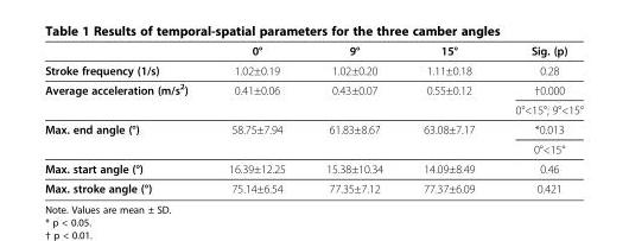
<table><thead><tr><td></td><td>0°</td><td>9°</td><td>15°</td><td>Sig. (p)</td></tr></thead><tbody><tr><td>Stroke frequency (1/s)</td><td>1.02±0.19</td><td>1.02±0.20</td><td>1.11±0.18</td><td>0.28</td></tr><tr><td rowspan="2">Average acceleration (m/s<sup>2</sup>)</td><td>0.41±0.06</td><td>0.43±0.07</td><td>0.55±0.12</td><td>†0.000</td></tr><tr><td></td><td></td><td></td><td>0°&lt;15°; 9°&lt;15°</td></tr><tr><td rowspan="2">Max. end angle (°)</td><td>58.75±7.94</td><td>61.83±8.67</td><td>63.08±7.17</td><td>*0.013</td></tr><tr><td></td><td></td><td></td><td>0°&lt;15°</td></tr><tr><td>Max. start angle (°)</td><td>16.39±12.25</td><td>15.38±10.34</td><td>14.09±8.49</td><td>0.46</td></tr><tr><td>Max. stroke angle (°)</td><td>75.14±6.54</td><td>77.35±7.12</td><td>77.37±6.09</td><td>0.421</td></tr></tbody></table>